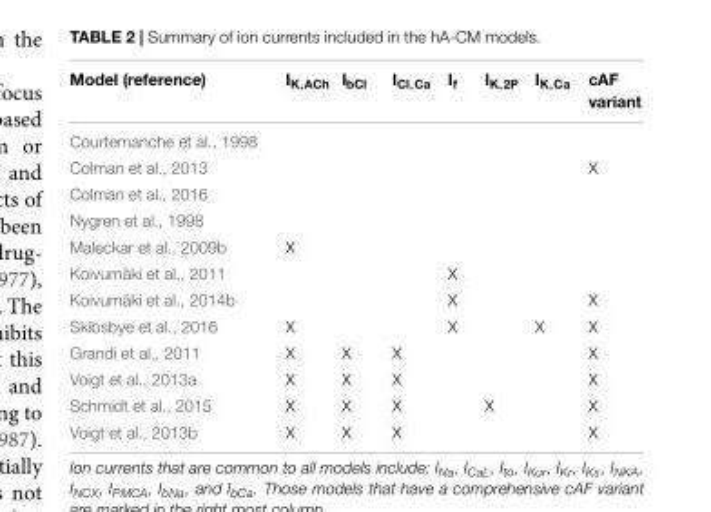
<table><thead><tr><td>Model (reference)</td><td>I<sub>K,ACh</sub></td><td>I<sub>bCl</sub></td><td>I<sub>Cl,Ca</sub></td><td>I<sub>f</sub></td><td>I<sub>K,2P</sub></td><td>I<sub>K,Ca</sub></td><td>cAF variant</td></tr></thead><tbody><tr><td colspan="8">Courtemanche et al., 1998</td></tr><tr><td>Colman et al., 2013</td><td></td><td></td><td></td><td></td><td></td><td></td><td>X</td></tr><tr><td colspan="8">Colman et al., 2016</td></tr><tr><td colspan="8">Nygren et al., 1998</td></tr><tr><td>Maleckar et al., 2009b</td><td>X</td><td></td><td></td><td></td><td></td><td></td><td></td></tr><tr><td>Koivumäki et al., 2011</td><td></td><td></td><td></td><td>X</td><td></td><td></td><td></td></tr><tr><td>Koivumäki et al., 2014b</td><td></td><td></td><td></td><td>X</td><td></td><td></td><td>X</td></tr><tr><td>Skibsbye et al., 2016</td><td>X</td><td></td><td></td><td>X</td><td></td><td>X</td><td>X</td></tr><tr><td>Grandi et al., 2011</td><td>X</td><td>X</td><td>X</td><td></td><td></td><td></td><td>X</td></tr><tr><td>Voigt et al., 2013a</td><td>X</td><td>X</td><td>X</td><td></td><td></td><td></td><td>X</td></tr><tr><td>Schmidt et al., 2015</td><td>X</td><td>X</td><td>X</td><td></td><td>X</td><td></td><td>X</td></tr><tr><td>Voigt et al., 2013b</td><td>X</td><td>X</td><td>X</td><td></td><td></td><td></td><td>X</td></tr></tbody></table>